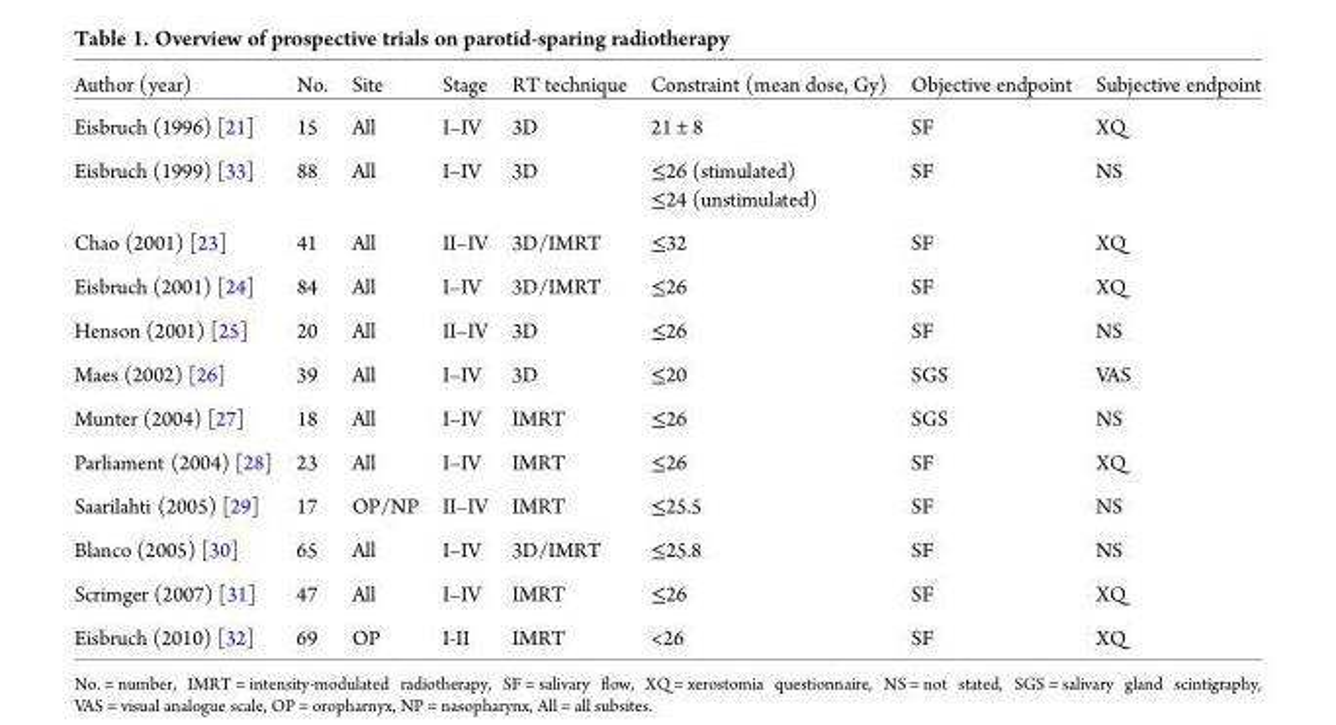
<table><thead><tr><td>Author (year)</td><td>No.</td><td>Site</td><td>Stage</td><td>RT technique</td><td>Constraint (mean dose, Gy)</td><td>Objective endpoint</td><td>Subjective endpoint</td></tr></thead><tbody><tr><td>Eisbruch (1996) [21]</td><td>15</td><td>All</td><td>I–IV</td><td>3D</td><td>21 ± 8</td><td>SF</td><td>XQ</td></tr><tr><td>Eisbruch (1999) [33]</td><td>88</td><td>All</td><td>I–IV</td><td>3D</td><td>≤26 (stimulated) ≤24 (unstimulated)</td><td>SF</td><td>NS</td></tr><tr><td>Chao (2001) [23]</td><td>41</td><td>All</td><td>II–IV</td><td>3D/IMRT</td><td>≤32</td><td>SF</td><td>XQ</td></tr><tr><td>Eisbruch (2001) [24]</td><td>84</td><td>All</td><td>I–IV</td><td>3D/IMRT</td><td>≤26</td><td>SF</td><td>XQ</td></tr><tr><td>Henson (2001) [25]</td><td>20</td><td>All</td><td>II–IV</td><td>3D</td><td>≤26</td><td>SF</td><td>NS</td></tr><tr><td>Maes (2002) [26]</td><td>39</td><td>All</td><td>I–IV</td><td>3D</td><td>≤20</td><td>SGS</td><td>VAS</td></tr><tr><td>Munter (2004) [27]</td><td>18</td><td>All</td><td>I–IV</td><td>IMRT</td><td>≤26</td><td>SGS</td><td>NS</td></tr><tr><td>Parliament (2004) [28]</td><td>23</td><td>All</td><td>I–IV</td><td>IMRT</td><td>≤26</td><td>SF</td><td>XQ</td></tr><tr><td>Saarilahti (2005) [29]</td><td>17</td><td>OP/NP</td><td>II–IV</td><td>IMRT</td><td>≤25.5</td><td>SF</td><td>NS</td></tr><tr><td>Blanco (2005) [30]</td><td>65</td><td>All</td><td>I–IV</td><td>3D/IMRT</td><td>≤25.8</td><td>SF</td><td>NS</td></tr><tr><td>Scrimger (2007) [31]</td><td>47</td><td>All</td><td>I–IV</td><td>IMRT</td><td>≤26</td><td>SF</td><td>XQ</td></tr><tr><td>Eisbruch (2010) [32]</td><td>69</td><td>OP</td><td>I-II</td><td>IMRT</td><td>&lt;26</td><td>SF</td><td>XQ</td></tr></tbody></table>